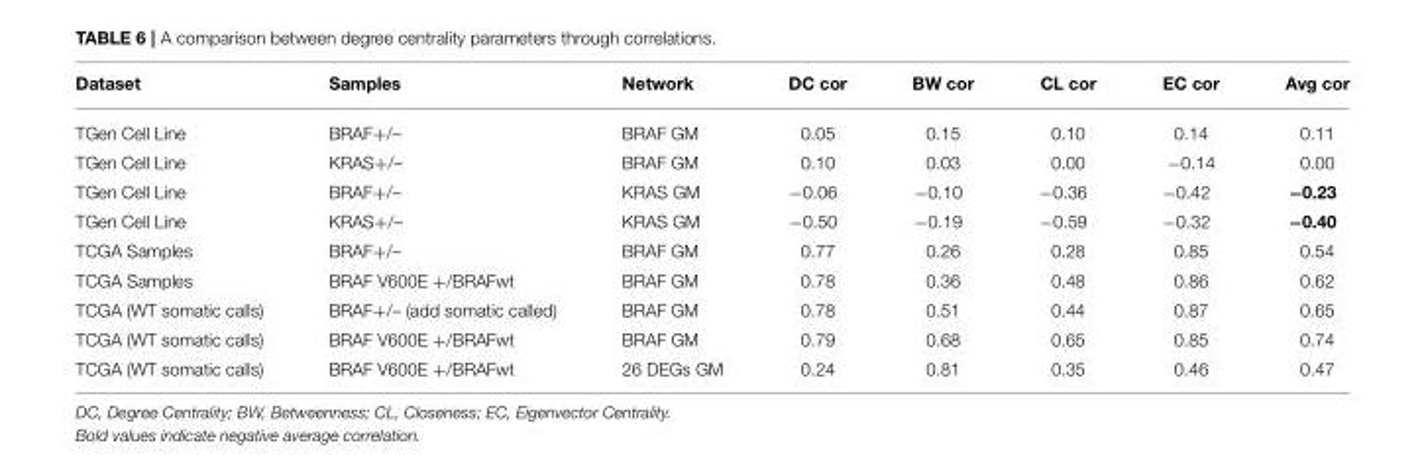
<table><thead><tr><td>Dataset</td><td>Samples</td><td>Network</td><td>DC cor</td><td>BW cor</td><td>CL cor</td><td>EC cor</td><td>Avg cor</td></tr></thead><tbody><tr><td>TGen Cell Line</td><td>BRAF+/–</td><td>BRAF GM</td><td>0.05</td><td>0.15</td><td>0.10</td><td>0.14</td><td>0.11</td></tr><tr><td>TGen Cell Line</td><td>KRAS+/–</td><td>BRAF GM</td><td>0.10</td><td>0.03</td><td>0.00</td><td>−0.14</td><td>0.00</td></tr><tr><td>TGen Cell Line</td><td>BRAF+/–</td><td>KRAS GM</td><td>−0.06</td><td>−0.10</td><td>−0.36</td><td>−0.42</td><td>−0.23</td></tr><tr><td>TGen Cell Line</td><td>KRAS+/–</td><td>KRAS GM</td><td>−0.50</td><td>−0.19</td><td>−0.59</td><td>−0.32</td><td>−0.40</td></tr><tr><td>TCGA Samples</td><td>BRAF+/–</td><td>BRAF GM</td><td>0.77</td><td>0.26</td><td>0.28</td><td>0.85</td><td>0.54</td></tr><tr><td>TCGA Samples</td><td>BRAF V600E +/BRAFwt</td><td>BRAF GM</td><td>0.78</td><td>0.36</td><td>0.48</td><td>0.86</td><td>0.62</td></tr><tr><td>TCGA (WT somatic calls)</td><td>BRAF+/– (add somatic called)</td><td>BRAF GM</td><td>0.78</td><td>0.51</td><td>0.44</td><td>0.87</td><td>0.65</td></tr><tr><td>TCGA (WT somatic calls)</td><td>BRAF V600E +/BRAFwt</td><td>BRAF GM</td><td>0.79</td><td>0.68</td><td>0.65</td><td>0.85</td><td>0.74</td></tr><tr><td>TCGA (WT somatic calls)</td><td>BRAF V600E +/BRAFwt</td><td>26 DEGs GM</td><td>0.24</td><td>0.81</td><td>0.35</td><td>0.46</td><td>0.47</td></tr></tbody></table>